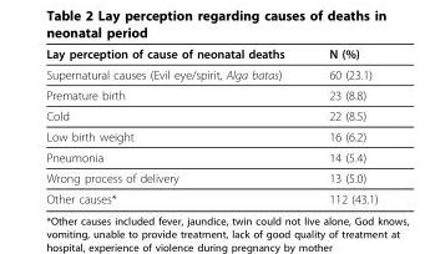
<table><thead><tr><td>Lay perception of cause of neonatal deaths</td><td>N (%)</td></tr></thead><tbody><tr><td>Supernatural causes (Evil eye/spirit, Alga batas)</td><td>60 (23.1)</td></tr><tr><td>Premature birth</td><td>23 (8.8)</td></tr><tr><td>Cold</td><td>22 (8.5)</td></tr><tr><td>Low birth weight</td><td>16 (6.2)</td></tr><tr><td>Pneumonia</td><td>14 (5.4)</td></tr><tr><td>Wrong process of delivery</td><td>13 (5.0)</td></tr><tr><td>Other causes*</td><td>112 (43.1)</td></tr></tbody></table>